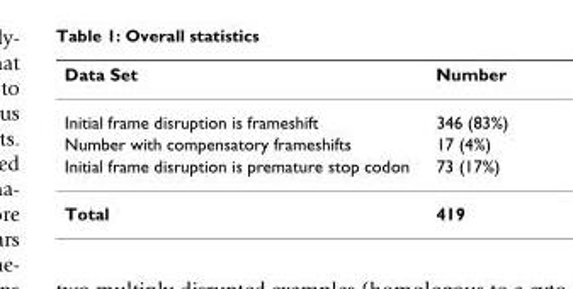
<table><thead><tr><td>Data Set</td><td>Number</td></tr></thead><tbody><tr><td>Initial frame disruption is frameshift</td><td>346 (83%)</td></tr><tr><td>Number with compensatory frameshifts</td><td>17 (4%)</td></tr><tr><td>Initial frame disruption is premature stop codon</td><td>73 (17%)</td></tr><tr><td>Total</td><td>419</td></tr></tbody></table>